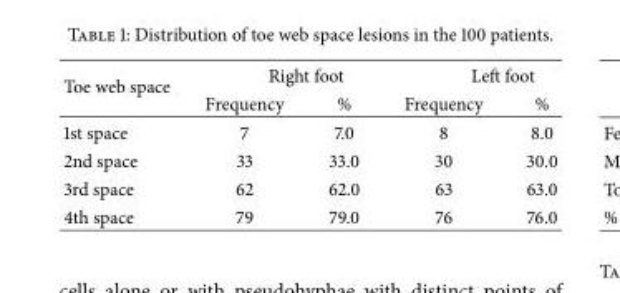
<table><thead><tr><td rowspan="2">Toe web space</td><td colspan="2">Right foot</td><td colspan="2">Left foot</td></tr><tr><td>Frequency</td><td>%</td><td>Frequency</td><td>%</td></tr></thead><tbody><tr><td>1st space</td><td>7</td><td>7.0</td><td>8</td><td>8.0</td></tr><tr><td>2nd space</td><td>33</td><td>33.0</td><td>30</td><td>30.0</td></tr><tr><td>3rd space</td><td>62</td><td>62.0</td><td>63</td><td>63.0</td></tr><tr><td>4th space</td><td>79</td><td>79.0</td><td>76</td><td>76.0</td></tr></tbody></table>